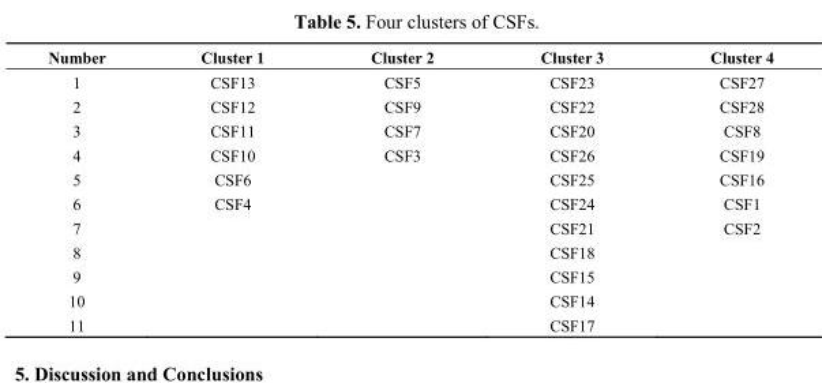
<table><thead><tr><td>Number</td><td>Cluster 1</td><td>Cluster 2</td><td>Cluster 3</td><td>Cluster 4</td></tr></thead><tbody><tr><td>1</td><td>CSF13</td><td>CSF5</td><td>CSF23</td><td>CSF27</td></tr><tr><td>2</td><td>CSF12</td><td>CSF9</td><td>CSF22</td><td>CSF28</td></tr><tr><td>3</td><td>CSF11</td><td>CSF7</td><td>CSF20</td><td>CSF8</td></tr><tr><td>4</td><td>CSF10</td><td>CSF3</td><td>CSF26</td><td>CSF19</td></tr><tr><td>5</td><td>CSF6</td><td></td><td>CSF25</td><td>CSF16</td></tr><tr><td>6</td><td>CSF4</td><td></td><td>CSF24</td><td>CSF1</td></tr><tr><td>7</td><td></td><td></td><td>CSF21</td><td>CSF2</td></tr><tr><td>8</td><td></td><td></td><td>CSF18</td><td></td></tr><tr><td>9</td><td></td><td></td><td>CSF15</td><td></td></tr><tr><td>10</td><td></td><td></td><td>CSF14</td><td></td></tr><tr><td>11</td><td></td><td></td><td>CSF17</td><td></td></tr></tbody></table>